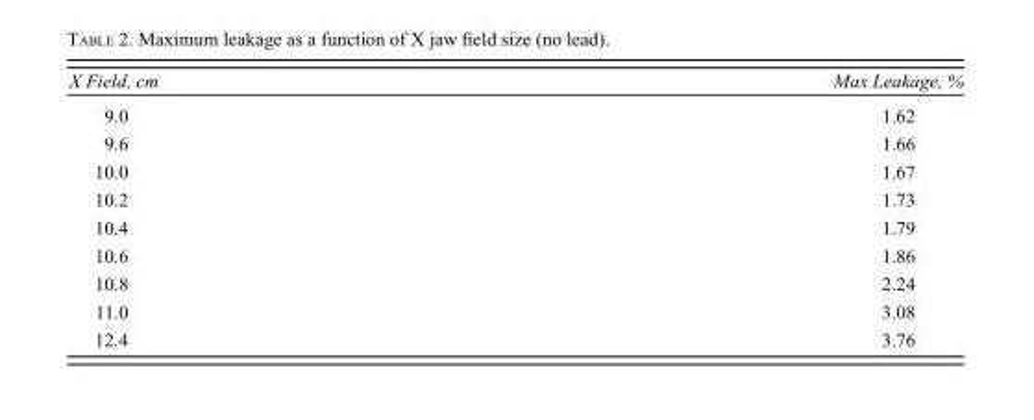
<table><thead><tr><td>X Field, cm</td><td>Max Leakage, %</td></tr></thead><tbody><tr><td>9.0</td><td>1.62</td></tr><tr><td>9.6</td><td>1.66</td></tr><tr><td>10.0</td><td>1.67</td></tr><tr><td>10.2</td><td>1.73</td></tr><tr><td>10.4</td><td>1.79</td></tr><tr><td>10.6</td><td>1.86</td></tr><tr><td>10.8</td><td>2.24</td></tr><tr><td>11.0</td><td>3.08</td></tr><tr><td>12.4</td><td>3.76</td></tr></tbody></table>